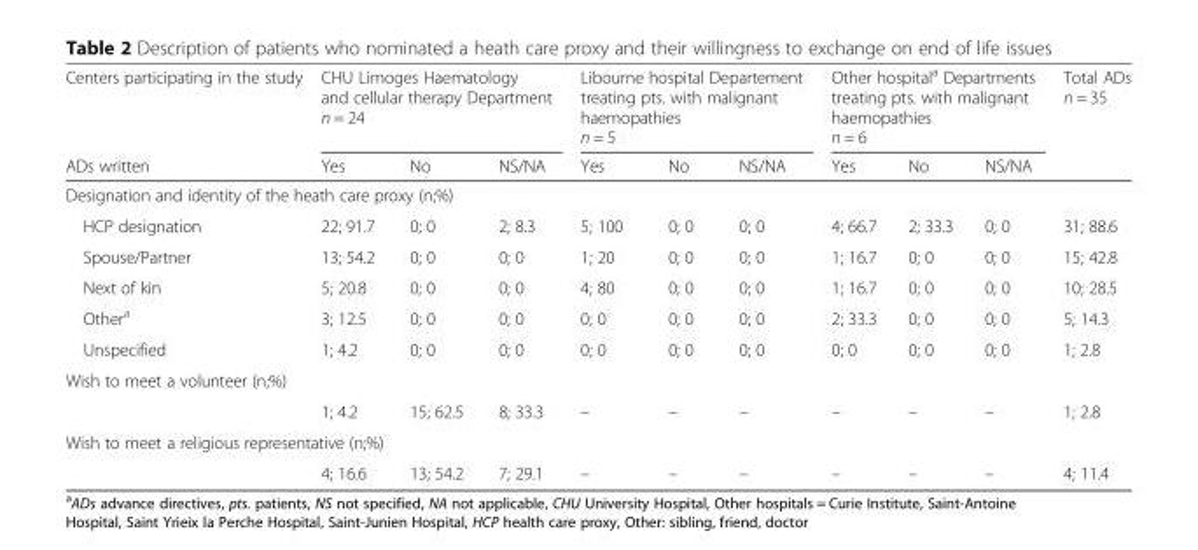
<table><thead><tr><td rowspan="2">Centers participating in the study ADs written</td><td colspan="3">CHU Limoges Haematology and cellular therapy Department n = 24</td><td colspan="3">Libourne hospital Departement treating pts. with malignant haemopathies n = 5</td><td colspan="3">Other hospital<sup>a</sup> Departments treating pts. with malignant haemopathies n = 6</td><td rowspan="2">Total ADs n = 35</td></tr><tr><td>Yes</td><td>No</td><td>NS/NA</td><td>Yes</td><td>No</td><td>NS/NA</td><td>Yes</td><td>No</td><td>NS/NA</td></tr></thead><tbody><tr><td colspan="11">Designation and identity of the heath care proxy (n;%)</td></tr><tr><td>HCP designation</td><td>22; 91.7</td><td>0; 0</td><td>2; 8.3</td><td>5; 100</td><td>0; 0</td><td>0; 0</td><td>4; 66.7</td><td>2; 33.3</td><td>0; 0</td><td>31; 88.6</td></tr><tr><td>Spouse/Partner</td><td>13; 54.2</td><td>0; 0</td><td>0; 0</td><td>1; 20</td><td>0; 0</td><td>0; 0</td><td>1; 16.7</td><td>0; 0</td><td>0; 0</td><td>15; 42.8</td></tr><tr><td>Next of kin</td><td>5; 20.8</td><td>0; 0</td><td>0; 0</td><td>4; 80</td><td>0; 0</td><td>0; 0</td><td>1; 16.7</td><td>0; 0</td><td>0; 0</td><td>10; 28.5</td></tr><tr><td>Other<sup>a</sup></td><td>3; 12.5</td><td>0; 0</td><td>0; 0</td><td>0; 0</td><td>0; 0</td><td>0; 0</td><td>2; 33.3</td><td>0; 0</td><td>0; 0</td><td>5; 14.3</td></tr><tr><td>Unspecified</td><td>1; 4.2</td><td>0; 0</td><td>0; 0</td><td>0; 0</td><td>0; 0</td><td>0; 0</td><td>0; 0</td><td>0; 0</td><td>0; 0</td><td>1; 2.8</td></tr><tr><td colspan="11">Wish to meet a volunteer (n;%)</td></tr><tr><td></td><td>1; 4.2</td><td>15; 62.5</td><td>8; 33.3</td><td>–</td><td>–</td><td>–</td><td>–</td><td>–</td><td>–</td><td>1; 2.8</td></tr><tr><td colspan="11">Wish to meet a religious representative (n;%)</td></tr><tr><td></td><td>4; 16.6</td><td>13; 54.2</td><td>7; 29.1</td><td>–</td><td>–</td><td>–</td><td>–</td><td>–</td><td>–</td><td>4; 11.4</td></tr></tbody></table>